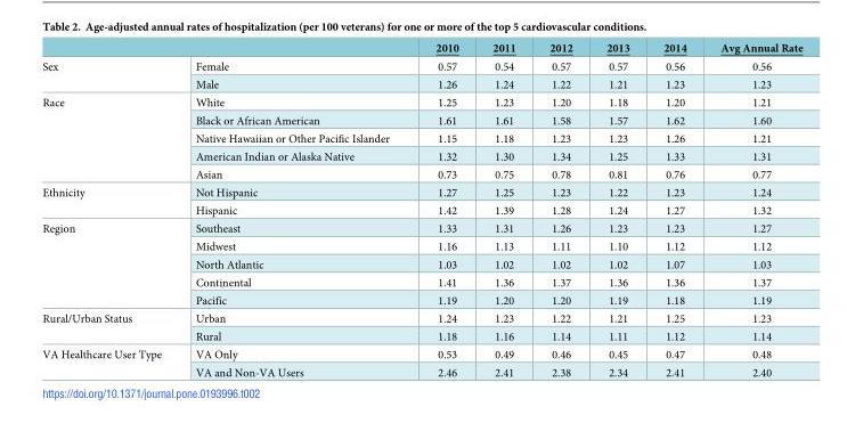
<table><thead><tr><td></td><td></td><td>2010</td><td>2011</td><td>2012</td><td>2013</td><td>2014</td><td>Avg Annual Rate</td></tr></thead><tbody><tr><td rowspan="2">Sex</td><td>Female</td><td>0.57</td><td>0.54</td><td>0.57</td><td>0.57</td><td>0.56</td><td>0.56</td></tr><tr><td>Male</td><td>1.26</td><td>1.24</td><td>1.22</td><td>1.21</td><td>1.23</td><td>1.23</td></tr><tr><td rowspan="5">Race</td><td>White</td><td>1.25</td><td>1.23</td><td>1.20</td><td>1.18</td><td>1.20</td><td>1.21</td></tr><tr><td>Black or African American</td><td>1.61</td><td>1.61</td><td>1.58</td><td>1.57</td><td>1.62</td><td>1.60</td></tr><tr><td>Native Hawaiian or Other Pacific Islander</td><td>1.15</td><td>1.18</td><td>1.23</td><td>1.23</td><td>1.26</td><td>1.21</td></tr><tr><td>American Indian or Alaska Native</td><td>1.32</td><td>1.30</td><td>1.34</td><td>1.25</td><td>1.33</td><td>1.31</td></tr><tr><td>Asian</td><td>0.73</td><td>0.75</td><td>0.78</td><td>0.81</td><td>0.76</td><td>0.77</td></tr><tr><td rowspan="2">Ethnicity</td><td>Not Hispanic</td><td>1.27</td><td>1.25</td><td>1.23</td><td>1.22</td><td>1.23</td><td>1.24</td></tr><tr><td>Hispanic</td><td>1.42</td><td>1.39</td><td>1.28</td><td>1.24</td><td>1.27</td><td>1.32</td></tr><tr><td rowspan="5">Region</td><td>Southeast</td><td>1.33</td><td>1.31</td><td>1.26</td><td>1.23</td><td>1.23</td><td>1.27</td></tr><tr><td>Midwest</td><td>1.16</td><td>1.13</td><td>1.11</td><td>1.10</td><td>1.12</td><td>1.12</td></tr><tr><td>North Atlantic</td><td>1.03</td><td>1.02</td><td>1.02</td><td>1.02</td><td>1.07</td><td>1.03</td></tr><tr><td>Continental</td><td>1.41</td><td>1.36</td><td>1.37</td><td>1.36</td><td>1.36</td><td>1.37</td></tr><tr><td>Pacific</td><td>1.19</td><td>1.20</td><td>1.20</td><td>1.19</td><td>1.18</td><td>1.19</td></tr><tr><td rowspan="2">Rural/Urban Status</td><td>Urban</td><td>1.24</td><td>1.23</td><td>1.22</td><td>1.21</td><td>1.25</td><td>1.23</td></tr><tr><td>Rural</td><td>1.18</td><td>1.16</td><td>1.14</td><td>1.11</td><td>1.12</td><td>1.14</td></tr><tr><td rowspan="2">VA Healthcare User Type</td><td>VA Only</td><td>0.53</td><td>0.49</td><td>0.46</td><td>0.45</td><td>0.47</td><td>0.48</td></tr><tr><td>VA and Non-VA Users</td><td>2.46</td><td>2.41</td><td>2.38</td><td>2.34</td><td>2.41</td><td>2.40</td></tr></tbody></table>